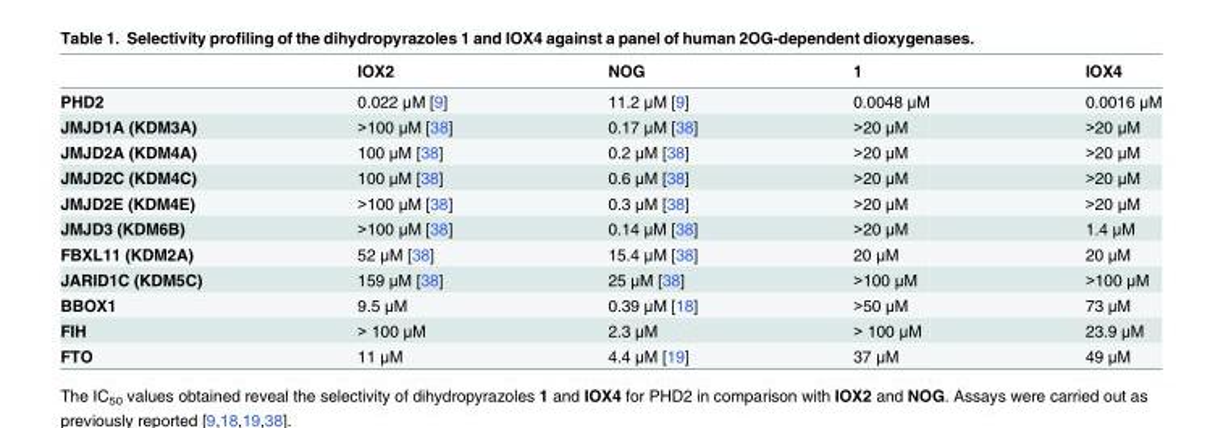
<table><thead><tr><td></td><td>IOX2</td><td>NOG</td><td>1</td><td>IOX4</td></tr></thead><tbody><tr><td>PHD2</td><td>0.022 μM [9]</td><td>11.2 μM [9]</td><td>0.0048 μM</td><td>0.0016 μM</td></tr><tr><td>JMJD1A (KDM3A)</td><td>&gt;100 μM [38]</td><td>0.17 μM [38]</td><td>&gt;20 μM</td><td>&gt;20 μM</td></tr><tr><td>JMJD2A (KDM4A)</td><td>100 μM [38]</td><td>0.2 μM [38]</td><td>&gt;20 μM</td><td>&gt;20 μM</td></tr><tr><td>JMJD2C (KDM4C)</td><td>100 μM [38]</td><td>0.6 μM [38]</td><td>&gt;20 μM</td><td>&gt;20 μM</td></tr><tr><td>JMJD2E (KDM4E)</td><td>&gt;100 μM [38]</td><td>0.3 μM [38]</td><td>&gt;20 μM</td><td>&gt;20 μM</td></tr><tr><td>JMJD3 (KDM6B)</td><td>&gt;100 μM [38]</td><td>0.14 μM [38]</td><td>&gt;20 μM</td><td>1.4 μM</td></tr><tr><td>FBXL11 (KDM2A)</td><td>52 μM [38]</td><td>15.4 μM [38]</td><td>20 μM</td><td>20 μM</td></tr><tr><td>JARID1C (KDM5C)</td><td>159 μM [38]</td><td>25 μM [38]</td><td>&gt;100 μM</td><td>&gt;100 μM</td></tr><tr><td>BBOX1</td><td>9.5 μM</td><td>0.39 μM [18]</td><td>&gt;50 μM</td><td>73 μM</td></tr><tr><td>FIH</td><td>&gt; 100 μM</td><td>2.3 μM</td><td>&gt; 100 μM</td><td>23.9 μM</td></tr><tr><td>FTO</td><td>11 μM</td><td>4.4 μM [19]</td><td>37 μM</td><td>49 μM</td></tr></tbody></table>